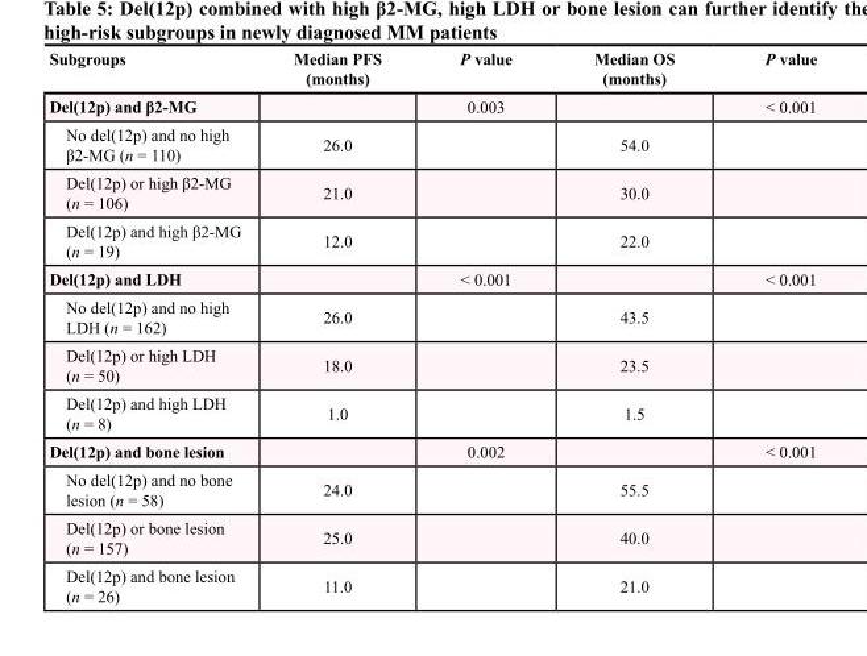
<table><thead><tr><td>Subgroups</td><td>Median PFS (months)</td><td>P value</td><td>Median OS (months)</td><td>P value</td></tr></thead><tbody><tr><td>Del(12p) and β2-MG</td><td></td><td>0.003</td><td></td><td>&lt; 0.001</td></tr><tr><td>No del(12p) and no high β2-MG (n = 110)</td><td>26.0</td><td></td><td>54.0</td><td></td></tr><tr><td>Del(12p) or high β2-MG (n = 106)</td><td>21.0</td><td></td><td>30.0</td><td></td></tr><tr><td>Del(12p) and high β2-MG (n = 19)</td><td>12.0</td><td></td><td>22.0</td><td></td></tr><tr><td>Del(12p) and LDH</td><td></td><td>&lt; 0.001</td><td></td><td>&lt; 0.001</td></tr><tr><td>No del(12p) and no high LDH (n = 162)</td><td>26.0</td><td></td><td>43.5</td><td></td></tr><tr><td>Del(12p) or high LDH (n = 50)</td><td>18.0</td><td></td><td>23.5</td><td></td></tr><tr><td>Del(12p) and high LDH (n = 8)</td><td>1.0</td><td></td><td>1.5</td><td></td></tr><tr><td>Del(12p) and bone lesion</td><td></td><td>0.002</td><td></td><td>&lt; 0.001</td></tr><tr><td>No del(12p) and no bone lesion (n = 58)</td><td>24.0</td><td></td><td>55.5</td><td></td></tr><tr><td>Del(12p) or bone lesion (n = 157)</td><td>25.0</td><td></td><td>40.0</td><td></td></tr><tr><td>Del(12p) and bone lesion (n = 26)</td><td>11.0</td><td></td><td>21.0</td><td></td></tr></tbody></table>